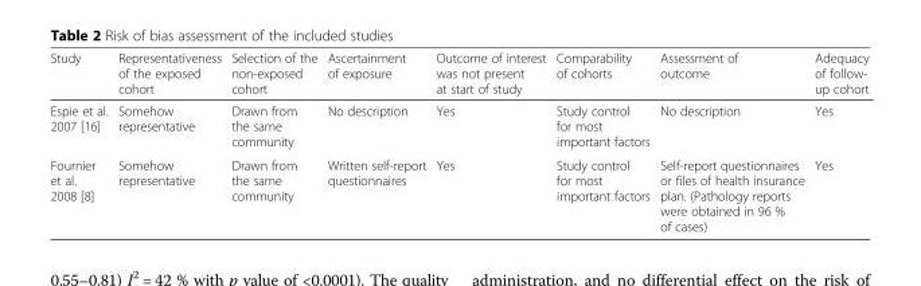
<table><thead><tr><td>Study</td><td>Representativeness of the exposed cohort</td><td>Selection of the non-exposed cohort</td><td>Ascertainment of exposure</td><td>Outcome of interest was not present at start of study</td><td>Comparability of cohorts</td><td>Assessment of outcome</td><td>Adequacy of follow- up cohort</td></tr></thead><tbody><tr><td>Espie et al. 2007 [16]</td><td>Somehow representative</td><td>Drawn from the same community</td><td>No description</td><td>Yes</td><td>Study control for most important factors</td><td>No description</td><td>Yes</td></tr><tr><td>Fournier et al. 2008 [8]</td><td>Somehow representative</td><td>Drawn from the same community</td><td>Written self-report questionnaires</td><td>Yes</td><td>Study control for most important factors</td><td>Self-report questionnaires or files of health insurance plan. (Pathology reports were obtained in 96 % of cases)</td><td>Yes</td></tr></tbody></table>